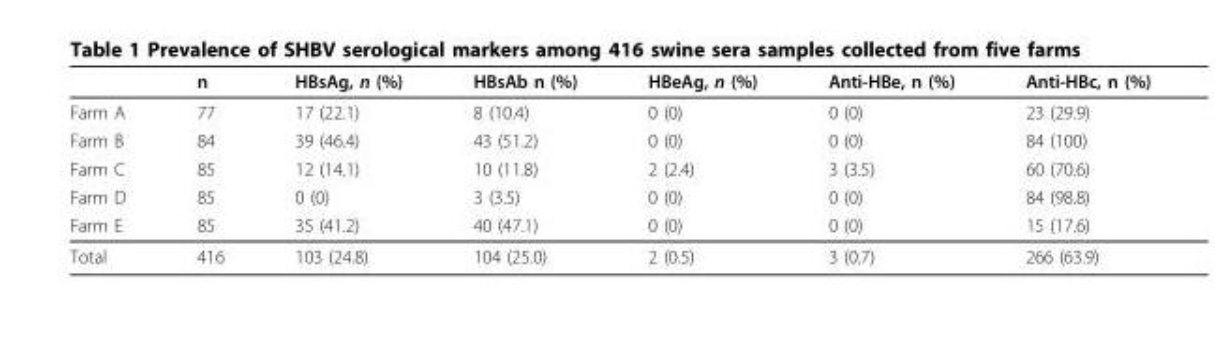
<table><thead><tr><td></td><td>n</td><td>HBsAg, n (%)</td><td>HBsAb n (%)</td><td>HBeAg, n (%)</td><td>Anti-HBe, n (%)</td><td>Anti-HBc, n (%)</td></tr></thead><tbody><tr><td>Farm A</td><td>77</td><td>17 (22.1)</td><td>8 (10.4)</td><td>0 (0)</td><td>0 (0)</td><td>23 (29.9)</td></tr><tr><td>Farm B</td><td>84</td><td>39 (46.4)</td><td>43 (51.2)</td><td>0 (0)</td><td>0 (0)</td><td>84 (100)</td></tr><tr><td>Farm C</td><td>85</td><td>12 (14.1)</td><td>10 (11.8)</td><td>2 (2.4)</td><td>3 (3.5)</td><td>60 (70.6)</td></tr><tr><td>Farm D</td><td>85</td><td>0 (0)</td><td>3 (3.5)</td><td>0 (0)</td><td>0 (0)</td><td>84 (98.8)</td></tr><tr><td>Farm E</td><td>85</td><td>35 (41.2)</td><td>40 (47.1)</td><td>0 (0)</td><td>0 (0)</td><td>15 (17.6)</td></tr><tr><td>Total</td><td>416</td><td>103 (24.8)</td><td>104 (25.0)</td><td>2 (0.5)</td><td>3 (0.7)</td><td>266 (63.9)</td></tr></tbody></table>